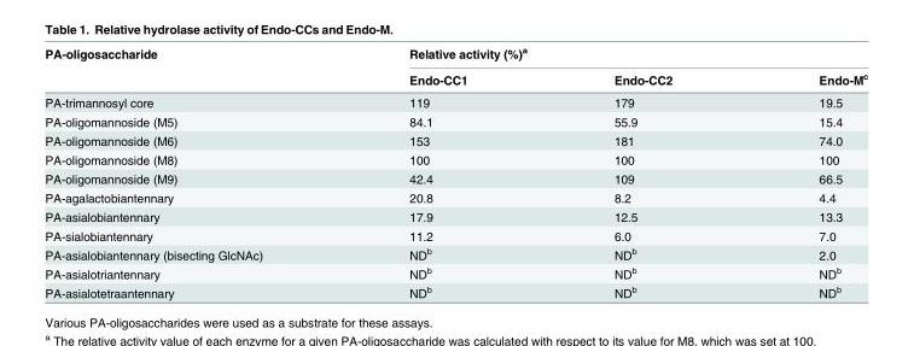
<table><thead><tr><td rowspan="2">PA-oligosaccharide</td><td colspan="3">Relative activity (%)<sup>a</sup></td></tr><tr><td>Endo-CC1</td><td>Endo-CC2</td><td>Endo-M<sup>c</sup></td></tr></thead><tbody><tr><td>PA-trimannosyl core</td><td>119</td><td>179</td><td>19.5</td></tr><tr><td>PA-oligomannoside (M5)</td><td>84.1</td><td>55.9</td><td>15.4</td></tr><tr><td>PA-oligomannoside (M6)</td><td>153</td><td>181</td><td>74.0</td></tr><tr><td>PA-oligomannoside (M8)</td><td>100</td><td>100</td><td>100</td></tr><tr><td>PA-oligomannoside (M9)</td><td>42.4</td><td>109</td><td>66.5</td></tr><tr><td>PA-agalactobiantennary</td><td>20.8</td><td>8.2</td><td>4.4</td></tr><tr><td>PA-asialobiantennary</td><td>17.9</td><td>12.5</td><td>13.3</td></tr><tr><td>PA-sialobiantennary</td><td>11.2</td><td>6.0</td><td>7.0</td></tr><tr><td>PA-asialobiantennary (bisecting GlcNAc)</td><td>ND<sup>b</sup></td><td>ND<sup>b</sup></td><td>2.0</td></tr><tr><td>PA-asialotriantennary</td><td>ND<sup>b</sup></td><td>ND<sup>b</sup></td><td>ND<sup>b</sup></td></tr><tr><td>PA-asialotetraantennary</td><td>ND<sup>b</sup></td><td>ND<sup>b</sup></td><td>ND<sup>b</sup></td></tr></tbody></table>